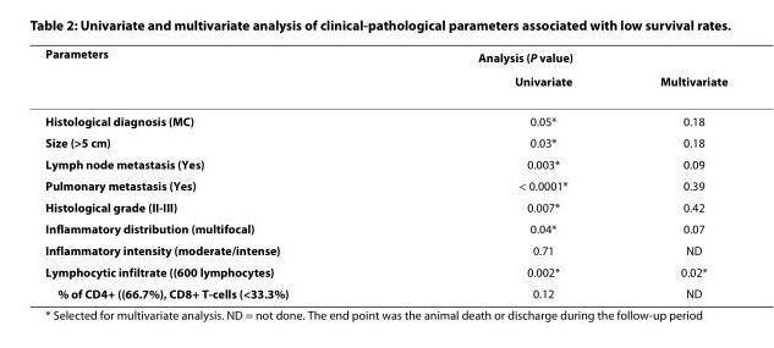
<table><thead><tr><td rowspan="2">Parameters</td><td colspan="2">Analysis (P value)</td></tr><tr><td>Univariate</td><td>Multivariate</td></tr></thead><tbody><tr><td>Histological diagnosis (MC)</td><td>0.05*</td><td>0.18</td></tr><tr><td>Size (&gt;5 cm)</td><td>0.03*</td><td>0.18</td></tr><tr><td>Lymph node metastasis (Yes)</td><td>0.003*</td><td>0.09</td></tr><tr><td>Pulmonary metastasis (Yes)</td><td>&lt; 0.0001*</td><td>0.39</td></tr><tr><td>Histological grade (II-III)</td><td>0.007*</td><td>0.42</td></tr><tr><td>Inflammatory distribution (multifocal)</td><td>0.04*</td><td>0.07</td></tr><tr><td>Inflammatory intensity (moderate/intense)</td><td>0.71</td><td>ND</td></tr><tr><td>Lymphocytic infiltrate ((600 lymphocytes)</td><td>0.002*</td><td>0.02*</td></tr><tr><td>% of CD4<sup>+</sup> ((66.7%), CD8<sup>+</sup> T-cells (&lt;33.3%)</td><td>0.12</td><td>ND</td></tr></tbody></table>